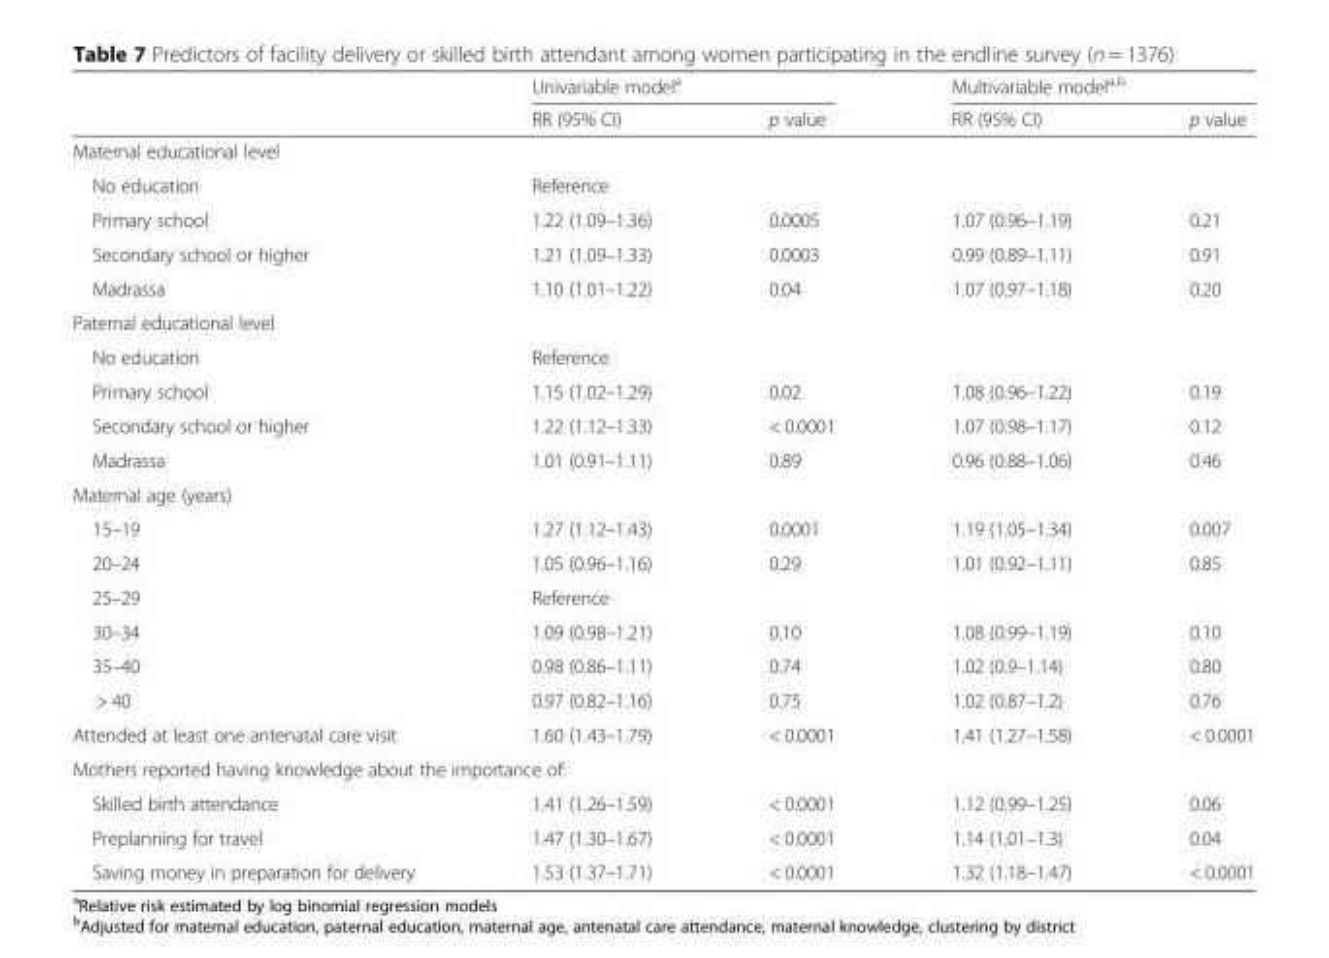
<table><thead><tr><td rowspan="2"></td><td colspan="2">Univariable model<sup>a</sup></td><td colspan="2">Multivariable model<sup>a,b</sup></td></tr><tr><td>RR (95% CI)</td><td>p value</td><td>RR (95% CI)</td><td>p value</td></tr></thead><tbody><tr><td colspan="5">Maternal educational level</td></tr><tr><td>No education</td><td>Reference</td><td></td><td></td><td></td></tr><tr><td>Primary school</td><td>1.22 (1.09–1.36)</td><td>0.0005</td><td>1.07 (0.96–1.19)</td><td>0.21</td></tr><tr><td>Secondary school or higher</td><td>1.21 (1.09–1.33)</td><td>0.0003</td><td>0.99 (0.89–1.11)</td><td>0.91</td></tr><tr><td>Madrassa</td><td>1.10 (1.01–1.22)</td><td>0.04</td><td>1.07 (0.97–1.18)</td><td>0.20</td></tr><tr><td colspan="5">Paternal educational level</td></tr><tr><td>No education</td><td>Reference</td><td></td><td></td><td></td></tr><tr><td>Primary school</td><td>1.15 (1.02–1.29)</td><td>0.02</td><td>1.08 (0.96–1.22)</td><td>0.19</td></tr><tr><td>Secondary school or higher</td><td>1.22 (1.12–1.33)</td><td>&lt; 0.0001</td><td>1.07 (0.98–1.17)</td><td>0.12</td></tr><tr><td>Madrassa</td><td>1.01 (0.91–1.11)</td><td>0.89</td><td>0.96 (0.88–1.06)</td><td>0.46</td></tr><tr><td colspan="5">Maternal age (years)</td></tr><tr><td>15–19</td><td>1.27 (1.12–1.43)</td><td>0.0001</td><td>1.19 (1.05–1.34)</td><td>0.007</td></tr><tr><td>20–24</td><td>1.05 (0.96–1.16)</td><td>0.29</td><td>1.01 (0.92–1.11)</td><td>0.85</td></tr><tr><td>25–29</td><td>Reference</td><td></td><td></td><td></td></tr><tr><td>30–34</td><td>1.09 (0.98–1.21)</td><td>0.10</td><td>1.08 (0.99–1.19)</td><td>0.10</td></tr><tr><td>35–40</td><td>0.98 (0.86–1.11)</td><td>0.74</td><td>1.02 (0.9–1.14)</td><td>0.80</td></tr><tr><td>&gt; 40</td><td>0.97 (0.82–1.16)</td><td>0.75</td><td>1.02 (0.87–1.2)</td><td>0.76</td></tr><tr><td>Attended at least one antenatal care visit</td><td>1.60 (1.43–1.79)</td><td>&lt; 0.0001</td><td>1.41 (1.27–1.58)</td><td>&lt; 0.0001</td></tr><tr><td colspan="5">Mothers reported having knowledge about the importance of:</td></tr><tr><td>Skilled birth attendance</td><td>1.41 (1.26–1.59)</td><td>&lt; 0.0001</td><td>1.12 (0.99–1.25)</td><td>0.06</td></tr><tr><td>Preplanning for travel</td><td>1.47 (1.30–1.67)</td><td>&lt; 0.0001</td><td>1.14 (1.01–1.3)</td><td>0.04</td></tr><tr><td>Saving money in preparation for delivery</td><td>1.53 (1.37–1.71)</td><td>&lt; 0.0001</td><td>1.32 (1.18–1.47)</td><td>&lt; 0.0001</td></tr></tbody></table>